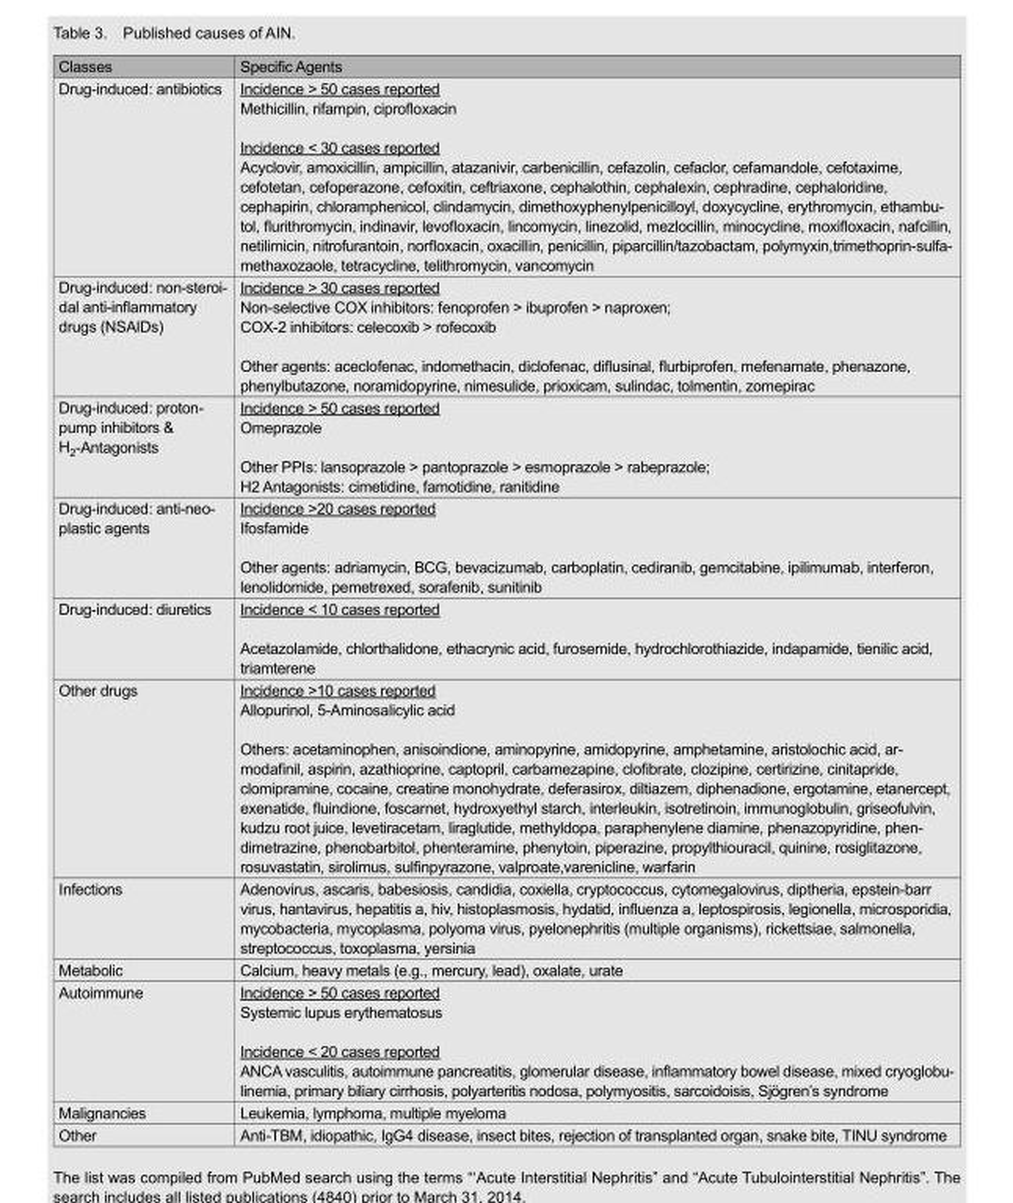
<table><thead><tr><td>Classes</td><td>Specific Agents</td></tr></thead><tbody><tr><td>Drug-induced: antibiotics</td><td>Incidence &gt; 50 cases reported Methicillin, rifampin, ciprofloxacin Incidence &lt; 30 cases reported Acyclovir, amoxicillin, ampicillin, atazanivir, carbenicillin, cefazolin, cefaclor, cefamandole, cefotaxime, cefotetan, cefoperazone, cefoxitin, ceftriaxone, cephalothin, cephalexin, cephradine, cephaloridine, cephapirin, chloramphenicol, clindamycin, dimethoxyphenylpenicilloyl, doxycycline, erythromycin, ethambu- tol, flurithromycin, indinavir, levofloxacin, lincomycin, linezolid, mezlocillin, minocycline, moxifloxacin, nafcillin, netilimicin, nitrofurantoin, norfloxacin, oxacillin, penicillin, piparcillin/tazobactam, polymyxin,trimethoprin-sulfa- methaxozaole, tetracycline, telithromycin, vancomycin</td></tr><tr><td>Drug-induced: non-steroi- dal anti-inflammatory drugs (NSAIDs)</td><td>Incidence &gt; 30 cases reported Non-selective COX inhibitors: fenoprofen &gt; ibuprofen &gt; naproxen; COX-2 inhibitors: celecoxib &gt; rofecoxib Other agents: aceclofenac, indomethacin, diclofenac, diflusinal, flurbiprofen, mefenamate, phenazone, phenylbutazone, noramidopyrine, nimesulide, prioxicam, sulindac, tolmentin, zomepirac</td></tr><tr><td>Drug-induced: proton- pump inhibitors &amp; H<sub>2</sub>-Antagonists</td><td>Incidence &gt; 50 cases reported Omeprazole Other PPIs: lansoprazole &gt; pantoprazole &gt; esmoprazole &gt; rabeprazole; H2 Antagonists: cimetidine, famotidine, ranitidine</td></tr><tr><td>Drug-induced: anti-neo- plastic agents</td><td>Incidence &gt;20 cases reported Ifosfamide Other agents: adriamycin, BCG, bevacizumab, carboplatin, cediranib, gemcitabine, ipilimumab, interferon, lenolidomide, pemetrexed, sorafenib, sunitinib</td></tr><tr><td>Drug-induced: diuretics</td><td>Incidence &lt; 10 cases reported Acetazolamide, chlorthalidone, ethacrynic acid, furosemide, hydrochlorothiazide, indapamide, tienilic acid, triamterene</td></tr><tr><td>Other drugs</td><td>Incidence &gt;10 cases reported Allopurinol, 5-Aminosalicylic acid Others: acetaminophen, anisoindione, aminopyrine, amidopyrine, amphetamine, aristolochic acid, ar- modafinil, aspirin, azathioprine, captopril, carbamezapine, clofibrate, clozipine, certirizine, cinitapride, clomipramine, cocaine, creatine monohydrate, deferasirox, diltiazem, diphenadione, ergotamine, etanercept, exenatide, fluindione, foscarnet, hydroxyethyl starch, interleukin, isotretinoin, immunoglobulin, griseofulvin, kudzu root juice, levetiracetam, liraglutide, methyldopa, paraphenylene diamine, phenazopyridine, phen- dimetrazine, phenobarbitol, phenteramine, phenytoin, piperazine, propylthiouracil, quinine, rosiglitazone, rosuvastatin, sirolimus, sulfinpyrazone, valproate,varenicline, warfarin</td></tr><tr><td>Infections</td><td>Adenovirus, ascaris, babesiosis, candidia, coxiella, cryptococcus, cytomegalovirus, diptheria, epstein-barr virus, hantavirus, hepatitis a, hiv, histoplasmosis, hydatid, influenza a, leptospirosis, legionella, microsporidia, mycobacteria, mycoplasma, polyoma virus, pyelonephritis (multiple organisms), rickettsiae, salmonella, streptococcus, toxoplasma, yersinia</td></tr><tr><td>Metabolic</td><td>Calcium, heavy metals (e.g., mercury, lead), oxalate, urate</td></tr><tr><td>Autoimmune</td><td>Incidence &gt; 50 cases reported Systemic lupus erythematosus Incidence &lt; 20 cases reported ANCA vasculitis, autoimmune pancreatitis, glomerular disease, inflammatory bowel disease, mixed cryoglobu- linemia, primary biliary cirrhosis, polyarteritis nodosa, polymyositis, sarcoidoisis, Sjögren’s syndrome</td></tr><tr><td>Malignancies</td><td>Leukemia, lymphoma, multiple myeloma</td></tr><tr><td>Other</td><td>Anti-TBM, idiopathic, IgG4 disease, insect bites, rejection of transplanted organ, snake bite, TINU syndrome</td></tr></tbody></table>